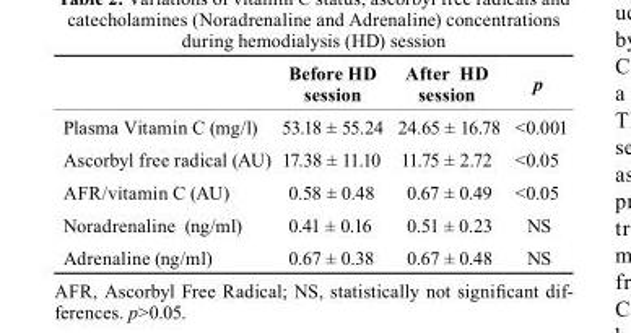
<table><thead><tr><td></td><td>Before HD session</td><td>After HD session</td><td>p</td></tr></thead><tbody><tr><td>Plasma Vitamin C (mg/l)</td><td>53.18 ± 55.24</td><td>24.65 ± 16.78</td><td>&lt;0.001</td></tr><tr><td>Ascorbyl free radical (AU)</td><td>17.38 ± 11.10</td><td>11.75 ± 2.72</td><td>&lt;0.05</td></tr><tr><td>AFR/vitamin C (AU)</td><td>0.58 ± 0.48</td><td>0.67 ± 0.49</td><td>&lt;0.05</td></tr><tr><td>Noradrenaline (ng/ml)</td><td>0.41 ± 0.16</td><td>0.51 ± 0.23</td><td>NS</td></tr><tr><td>Adrenaline (ng/ml)</td><td>0.67 ± 0.38</td><td>0.67 ± 0.48</td><td>NS</td></tr></tbody></table>